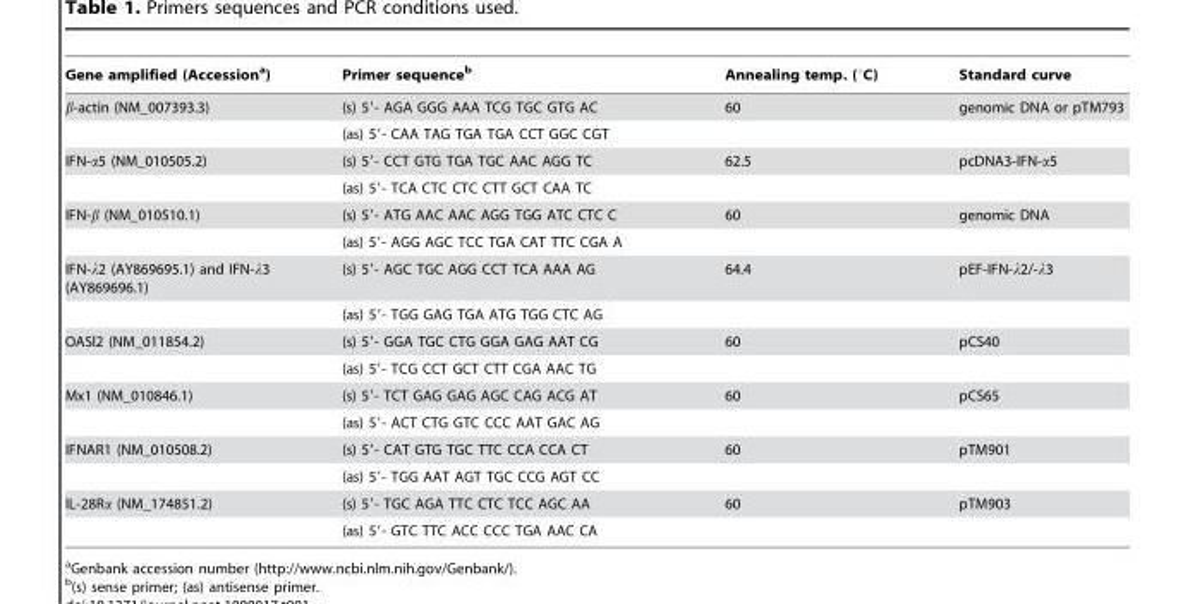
<table><thead><tr><td>Gene amplified (Accession<sup>a</sup>)</td><td>Primer sequence<sup>b</sup></td><td>Annealing temp. (°C)</td><td>Standard curve</td></tr></thead><tbody><tr><td rowspan="2">β-actin (NM_007393.3)</td><td>(s) 5′- AGA GGG AAA TCG TGC GTG AC</td><td>60</td><td>genomic DNA or pTM793</td></tr><tr><td>(as) 5′- CAA TAG TGA TGA CCT GGC CGT</td><td></td><td></td></tr><tr><td rowspan="2">IFN-α5 (NM_010505.2)</td><td>(s) 5′- CCT GTG TGA TGC AAC AGG TC</td><td>62.5</td><td>pcDNA3-IFN-α5</td></tr><tr><td>(as) 5′- TCA CTC CTC CTT GCT CAA TC</td><td></td><td></td></tr><tr><td rowspan="2">IFN-β (NM_010510.1)</td><td>(s) 5′- ATG AAC AAC AGG TGG ATC CTC C</td><td>60</td><td>genomic DNA</td></tr><tr><td>(as) 5′- AGG AGC TCC TGA CAT TTC CGA A</td><td></td><td></td></tr><tr><td rowspan="2">IFN-λ2 (AY869695.1) and IFN-λ3 (AY869696.1)</td><td>(s) 5′- AGC TGC AGG CCT TCA AAA AG</td><td>64.4</td><td>pEF-IFN-λ2/-λ3</td></tr><tr><td>(as) 5′- TGG GAG TGA ATG TGG CTC AG</td><td></td><td></td></tr><tr><td rowspan="2">OASl2 (NM_011854.2)</td><td>(s) 5′- GGA TGC CTG GGA GAG AAT CG</td><td>60</td><td>pCS40</td></tr><tr><td>(as) 5′- TCG CCT GCT CTT CGA AAC TG</td><td></td><td></td></tr><tr><td rowspan="2">Mx1 (NM_010846.1)</td><td>(s) 5′- TCT GAG GAG AGC CAG ACG AT</td><td>60</td><td>pCS65</td></tr><tr><td>(as) 5′- ACT CTG GTC CCC AAT GAC AG</td><td></td><td></td></tr><tr><td rowspan="2">IFNAR1 (NM_010508.2)</td><td>(s) 5′- CAT GTG TGC TTC CCA CCA CT</td><td>60</td><td>pTM901</td></tr><tr><td>(as) 5′- TGG AAT AGT TGC CCG AGT CC</td><td></td><td></td></tr><tr><td rowspan="2">IL-28Rα (NM_174851.2)</td><td>(s) 5′- TGC AGA TTC CTC TCC AGC AA</td><td>60</td><td>pTM903</td></tr><tr><td>(as) 5′- GTC TTC ACC CCC TGA AAC CA</td><td></td><td></td></tr></tbody></table>